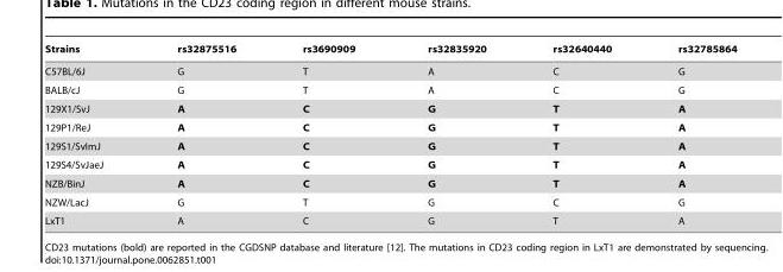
<table><thead><tr><td>Strains</td><td>rs32875516</td><td>rs3690909</td><td>rs32835920</td><td>rs32640440</td><td>rs32785864</td></tr></thead><tbody><tr><td>C57BL/6J</td><td>G</td><td>T</td><td>A</td><td>C</td><td>G</td></tr><tr><td>BALB/cJ</td><td>G</td><td>T</td><td>A</td><td>C</td><td>G</td></tr><tr><td>129X1/SvJ</td><td>A</td><td>C</td><td>G</td><td>T</td><td>A</td></tr><tr><td>129P1/ReJ</td><td>A</td><td>C</td><td>G</td><td>T</td><td>A</td></tr><tr><td>129S1/SvImJ</td><td>A</td><td>C</td><td>G</td><td>T</td><td>A</td></tr><tr><td>129S4/SvJaeJ</td><td>A</td><td>C</td><td>G</td><td>T</td><td>A</td></tr><tr><td>NZB/BinJ</td><td>A</td><td>C</td><td>G</td><td>T</td><td>A</td></tr><tr><td>NZW/LacJ</td><td>G</td><td>T</td><td>G</td><td>C</td><td>G</td></tr><tr><td>LxT1</td><td>A</td><td>C</td><td>G</td><td>T</td><td>A</td></tr></tbody></table>